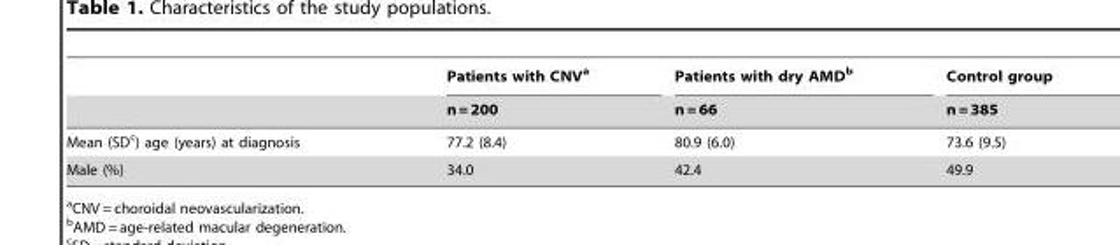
<table><thead><tr><td rowspan="2"></td><td rowspan="2">Patients with CNV<sup>a</sup> n = 200</td><td rowspan="2">Patients with dry AMD<sup>b</sup> n = 66</td><td rowspan="2">Control group n = 385</td></tr><tr></tr></thead><tbody><tr><td>Mean (SD<sup>c</sup>) age (years) at diagnosis</td><td>77.2 (8.4)</td><td>80.9 (6.0)</td><td>73.6 (9.5)</td></tr><tr><td>Male (%)</td><td>34.0</td><td>42.4</td><td>49.9</td></tr></tbody></table>